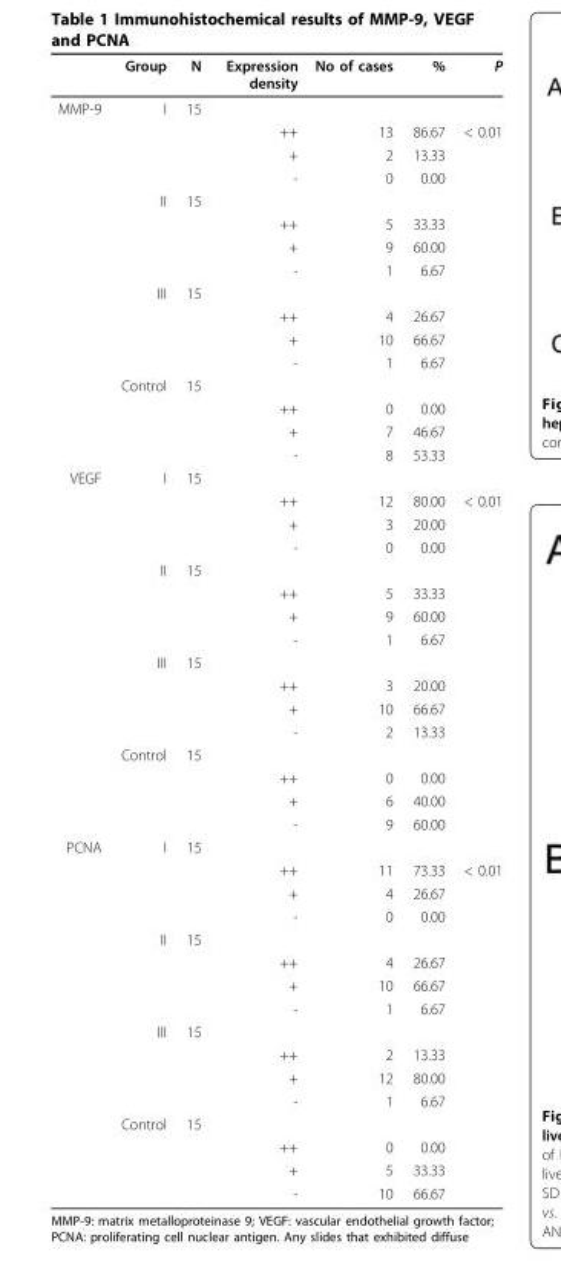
<table><thead><tr><td></td><td>Group</td><td>N</td><td>Expression density</td><td>No of cases</td><td>%</td><td>P</td></tr></thead><tbody><tr><td rowspan="16">MMP-9</td><td>I</td><td>15</td><td></td><td></td><td></td><td></td></tr><tr><td></td><td></td><td>++</td><td>13</td><td>86.67</td><td>&lt; 0.01</td></tr><tr><td></td><td></td><td>+</td><td>2</td><td>13.33</td><td></td></tr><tr><td></td><td></td><td>-</td><td>0</td><td>0.00</td><td></td></tr><tr><td>II</td><td>15</td><td></td><td></td><td></td><td></td></tr><tr><td></td><td></td><td>++</td><td>5</td><td>33.33</td><td></td></tr><tr><td></td><td></td><td>+</td><td>9</td><td>60.00</td><td></td></tr><tr><td></td><td></td><td>-</td><td>1</td><td>6.67</td><td></td></tr><tr><td>III</td><td>15</td><td></td><td></td><td></td><td></td></tr><tr><td></td><td></td><td>++</td><td>4</td><td>26.67</td><td></td></tr><tr><td></td><td></td><td>+</td><td>10</td><td>66.67</td><td></td></tr><tr><td></td><td></td><td>-</td><td>1</td><td>6.67</td><td></td></tr><tr><td>Control</td><td>15</td><td></td><td></td><td></td><td></td></tr><tr><td></td><td></td><td>++</td><td>0</td><td>0.00</td><td></td></tr><tr><td></td><td></td><td>+</td><td>7</td><td>46.67</td><td></td></tr><tr><td></td><td></td><td>-</td><td>8</td><td>53.33</td><td></td></tr><tr><td rowspan="16">VEGF</td><td>I</td><td>15</td><td></td><td></td><td></td><td></td></tr><tr><td></td><td></td><td>++</td><td>12</td><td>80.00</td><td>&lt; 0.01</td></tr><tr><td></td><td></td><td>+</td><td>3</td><td>20.00</td><td></td></tr><tr><td></td><td></td><td>-</td><td>0</td><td>0.00</td><td></td></tr><tr><td>II</td><td>15</td><td></td><td></td><td></td><td></td></tr><tr><td></td><td></td><td>++</td><td>5</td><td>33.33</td><td></td></tr><tr><td></td><td></td><td>+</td><td>9</td><td>60.00</td><td></td></tr><tr><td></td><td></td><td>-</td><td>1</td><td>6.67</td><td></td></tr><tr><td>III</td><td>15</td><td></td><td></td><td></td><td></td></tr><tr><td></td><td></td><td>++</td><td>3</td><td>20.00</td><td></td></tr><tr><td></td><td></td><td>+</td><td>10</td><td>66.67</td><td></td></tr><tr><td></td><td></td><td>-</td><td>2</td><td>13.33</td><td></td></tr><tr><td>Control</td><td>15</td><td></td><td></td><td></td><td></td></tr><tr><td></td><td></td><td>++</td><td>0</td><td>0.00</td><td></td></tr><tr><td></td><td></td><td>+</td><td>6</td><td>40.00</td><td></td></tr><tr><td></td><td></td><td>-</td><td>9</td><td>60.00</td><td></td></tr><tr><td rowspan="16">PCNA</td><td>I</td><td>15</td><td></td><td></td><td></td><td></td></tr><tr><td></td><td></td><td>++</td><td>11</td><td>73.33</td><td>&lt; 0.01</td></tr><tr><td></td><td></td><td>+</td><td>4</td><td>26.67</td><td></td></tr><tr><td></td><td></td><td>-</td><td>0</td><td>0.00</td><td></td></tr><tr><td>II</td><td>15</td><td></td><td></td><td></td><td></td></tr><tr><td></td><td></td><td>++</td><td>4</td><td>26.67</td><td></td></tr><tr><td></td><td></td><td>+</td><td>10</td><td>66.67</td><td></td></tr><tr><td></td><td></td><td>-</td><td>1</td><td>6.67</td><td></td></tr><tr><td>III</td><td>15</td><td></td><td></td><td></td><td></td></tr><tr><td></td><td></td><td>++</td><td>2</td><td>13.33</td><td></td></tr><tr><td></td><td></td><td>+</td><td>12</td><td>80.00</td><td></td></tr><tr><td></td><td></td><td>-</td><td>1</td><td>6.67</td><td></td></tr><tr><td>Control</td><td>15</td><td></td><td></td><td></td><td></td></tr><tr><td></td><td></td><td>++</td><td>0</td><td>0.00</td><td></td></tr><tr><td></td><td></td><td>+</td><td>5</td><td>33.33</td><td></td></tr><tr><td></td><td></td><td>-</td><td>10</td><td>66.67</td><td></td></tr></tbody></table>